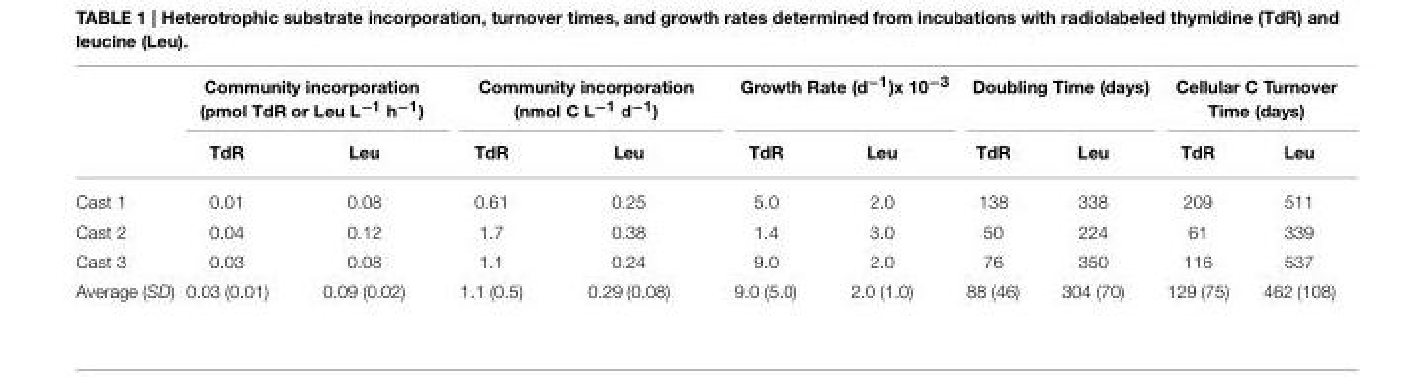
<table><thead><tr><td rowspan="2"></td><td colspan="2">Community incorporation (pmol TdR or Leu L<sup>−1</sup> h<sup>−1</sup>)</td><td colspan="2">Community incorporation (nmol C L<sup>−1</sup> d<sup>−1</sup>)</td><td colspan="2">Growth Rate (d<sup>−1</sup>)x 10<sup>−3</sup></td><td colspan="2">Doubling Time (days)</td><td colspan="2">Cellular C Turnover Time (days)</td></tr><tr><td>TdR</td><td>Leu</td><td>TdR</td><td>Leu</td><td>TdR</td><td>Leu</td><td>TdR</td><td>Leu</td><td>TdR</td><td>Leu</td></tr></thead><tbody><tr><td>Cast 1</td><td>0.01</td><td>0.08</td><td>0.61</td><td>0.25</td><td>5.0</td><td>2.0</td><td>138</td><td>338</td><td>209</td><td>511</td></tr><tr><td>Cast 2</td><td>0.04</td><td>0.12</td><td>1.7</td><td>0.38</td><td>1.4</td><td>3.0</td><td>50</td><td>224</td><td>61</td><td>339</td></tr><tr><td>Cast 3</td><td>0.03</td><td>0.08</td><td>1.1</td><td>0.24</td><td>9.0</td><td>2.0</td><td>76</td><td>350</td><td>116</td><td>537</td></tr><tr><td>Average (SD)</td><td>0.03 (0.01)</td><td>0.09 (0.02)</td><td>1.1 (0.5)</td><td>0.29 (0.08)</td><td>9.0 (5.0)</td><td>2.0 (1.0)</td><td>88 (46)</td><td>304 (70)</td><td>129 (75)</td><td>462 (108)</td></tr></tbody></table>